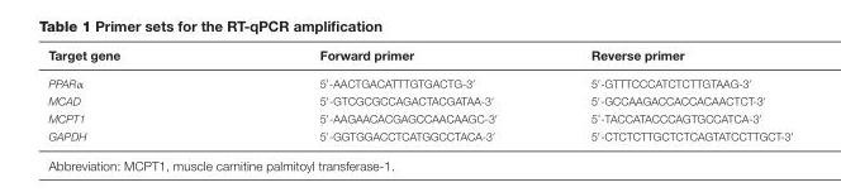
<table><thead><tr><td>Target gene</td><td>Forward primer</td><td>Reverse primer</td></tr></thead><tbody><tr><td>PPARα</td><td>5′-AACTGACATTTGTGACTG-3′</td><td>5′-GTTTCCCATCTCTTGTAAG-3′</td></tr><tr><td>MCAD</td><td>5′-GTCGCGCCAGACTACGATAA-3′</td><td>5′-GCCAAGACCACCACAACTCT-3′</td></tr><tr><td>MCPT1</td><td>5′-AAGAACACGAGCCAACAAGC-3′</td><td>5’-TACCATACCCAGTGCCATCA-3′</td></tr><tr><td>GAPDH</td><td>5′-GGTGGACCTCATGGCCTACA-3′</td><td>5′-CTCTCTTGCTCTCAGTATCCTTGCT-3′</td></tr></tbody></table>